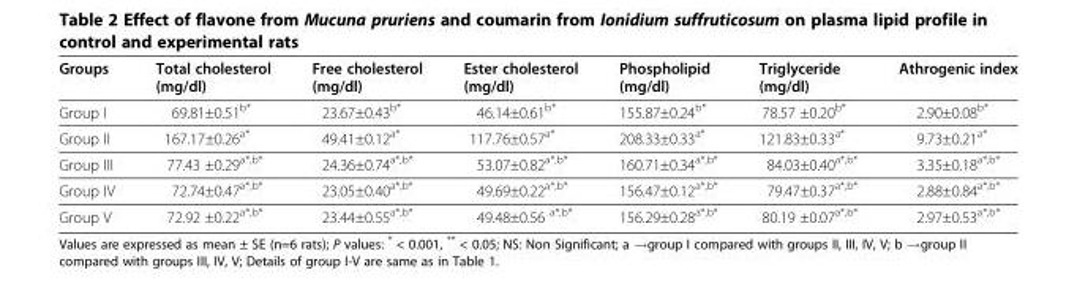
<table><thead><tr><td>Groups</td><td>Total cholesterol (mg/dl)</td><td>Free cholesterol (mg/dl)</td><td>Ester cholesterol (mg/dl)</td><td>Phospholipid (mg/dl)</td><td>Triglyceride (mg/dl)</td><td>Athrogenic index</td></tr></thead><tbody><tr><td>Group I</td><td>69.81±0.51<sup>b*</sup></td><td>23.67±0.43<sup>b*</sup></td><td>46.14±0.61<sup>b*</sup></td><td>155.87±0.24<sup>b*</sup></td><td>78.57 ±0.20<sup>b*</sup></td><td>2.90±0.08<sup>b*</sup></td></tr><tr><td>Group II</td><td>167.17±0.26<sup>a*</sup></td><td>49.41±0.12<sup>a*</sup></td><td>117.76±0.57<sup>a*</sup></td><td>208.33±0.33<sup>a*</sup></td><td>121.83±0.33<sup>a*</sup></td><td>9.73±0.21<sup>a*</sup></td></tr><tr><td>Group III</td><td>77.43 ±0.29<sup>a*,b*</sup></td><td>24.36±0.74<sup>a*,b*</sup></td><td>53.07±0.82<sup>a*,b*</sup></td><td>160.71±0.34<sup>a*,b*</sup></td><td>84.03±0.40<sup>a*,b*</sup></td><td>3.35±0.18<sup>a*,b*</sup></td></tr><tr><td>Group IV</td><td>72.74±0.47<sup>a*,b*</sup></td><td>23.05±0.40<sup>a*,b*</sup></td><td>49.69±0.22<sup>a*,b*</sup></td><td>156.47±0.12<sup>a*,b*</sup></td><td>79.47±0.37<sup>a*,b*</sup></td><td>2.88±0.84<sup>a*,b*</sup></td></tr><tr><td>Group V</td><td>72.92 ±0.22<sup>a*,b*</sup></td><td>23.44±0.55<sup>a*,b*</sup></td><td>49.48±0.56 <sup>a*,b*</sup></td><td>156.29±0.28<sup>a*,b*</sup></td><td>80.19 ±0.07<sup>a*,b*</sup></td><td>2.97±0.53<sup>a*,b*</sup></td></tr></tbody></table>